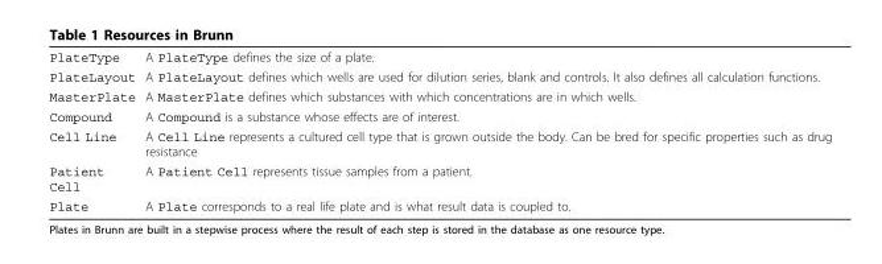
<table><tbody><tr><td>PlateType</td><td>A PlateType defines the size of a plate.</td></tr><tr><td>PlateLayout</td><td>A PlateLayout defines which wells are used for dilution series, blank and controls. It also defines all calculation functions.</td></tr><tr><td>MasterPlate</td><td>A MasterPlate defines which substances with which concentrations are in which wells.</td></tr><tr><td>Compound</td><td>A Compound is a substance whose effects are of interest.</td></tr><tr><td>Cell Line</td><td>A Cell Line represents a cultured cell type that is grown outside the body. Can be bred for specific properties such as drug resistance</td></tr><tr><td>Patient Cell</td><td>A Patient Cell represents tissue samples from a patient.</td></tr><tr><td>Plate</td><td>A Plate corresponds to a real life plate and is what result data is coupled to.</td></tr></tbody></table>